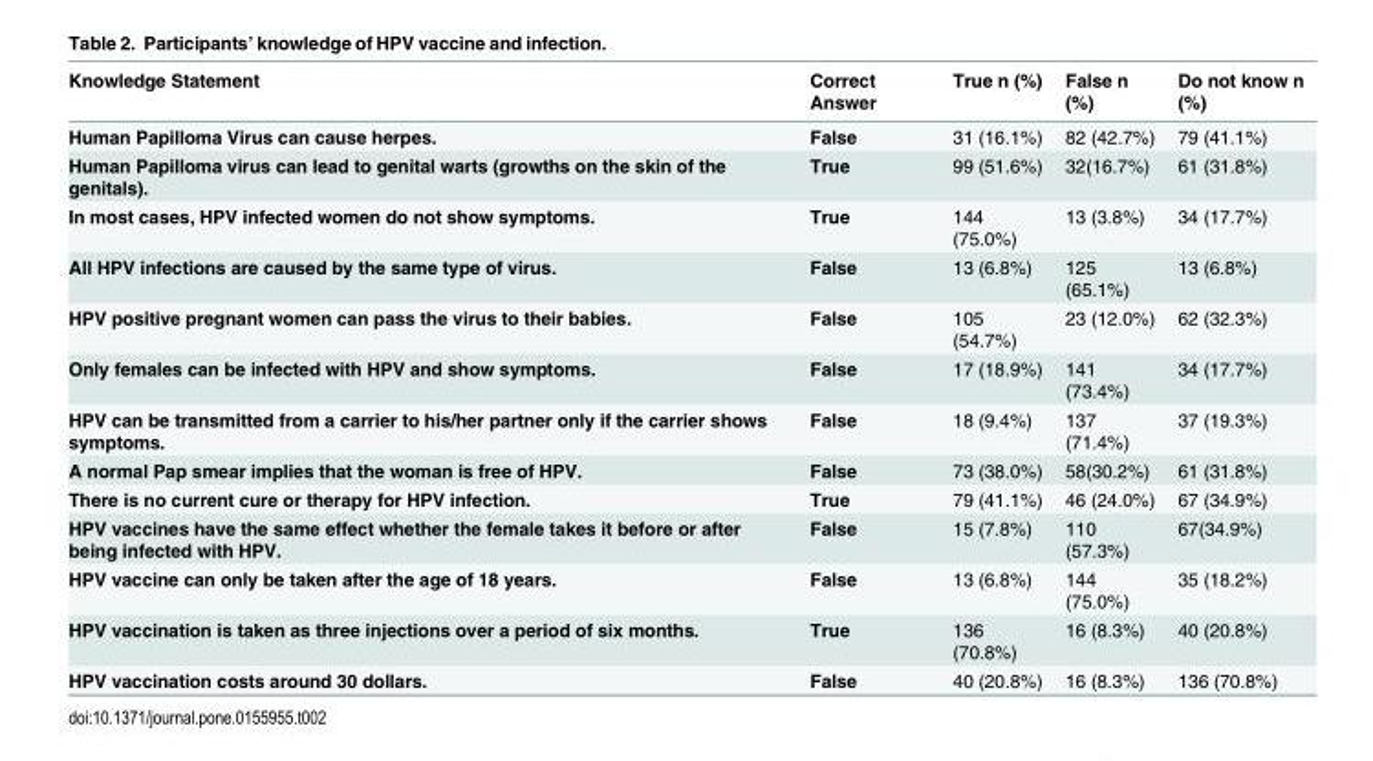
<table><thead><tr><td>Knowledge Statement</td><td>Correct Answer</td><td>True n (%)</td><td>False n (%)</td><td>Do not know n (%)</td></tr></thead><tbody><tr><td>Human Papilloma Virus can cause herpes.</td><td>False</td><td>31 (16.1%)</td><td>82 (42.7%)</td><td>79 (41.1%)</td></tr><tr><td>Human Papilloma virus can lead to genital warts (growths on the skin of the genitals).</td><td>True</td><td>99 (51.6%)</td><td>32(16.7%)</td><td>61 (31.8%)</td></tr><tr><td>In most cases, HPV infected women do not show symptoms.</td><td>True</td><td>144 (75.0%)</td><td>13 (3.8%)</td><td>34 (17.7%)</td></tr><tr><td>All HPV infections are caused by the same type of virus.</td><td>False</td><td>13 (6.8%)</td><td>125 (65.1%)</td><td>13 (6.8%)</td></tr><tr><td>HPV positive pregnant women can pass the virus to their babies.</td><td>False</td><td>105 (54.7%)</td><td>23 (12.0%)</td><td>62 (32.3%)</td></tr><tr><td>Only females can be infected with HPV and show symptoms.</td><td>False</td><td>17 (18.9%)</td><td>141 (73.4%)</td><td>34 (17.7%)</td></tr><tr><td>HPV can be transmitted from a carrier to his/her partner only if the carrier shows symptoms.</td><td>False</td><td>18 (9.4%)</td><td>137 (71.4%)</td><td>37 (19.3%)</td></tr><tr><td>A normal Pap smear implies that the woman is free of HPV.</td><td>False</td><td>73 (38.0%)</td><td>58(30.2%)</td><td>61 (31.8%)</td></tr><tr><td>There is no current cure or therapy for HPV infection.</td><td>True</td><td>79 (41.1%)</td><td>46 (24.0%)</td><td>67 (34.9%)</td></tr><tr><td>HPV vaccines have the same effect whether the female takes it before or after being infected with HPV.</td><td>False</td><td>15 (7.8%)</td><td>110 (57.3%)</td><td>67(34.9%)</td></tr><tr><td>HPV vaccine can only be taken after the age of 18 years.</td><td>False</td><td>13 (6.8%)</td><td>144 (75.0%)</td><td>35 (18.2%)</td></tr><tr><td>HPV vaccination is taken as three injections over a period of six months.</td><td>True</td><td>136 (70.8%)</td><td>16 (8.3%)</td><td>40 (20.8%)</td></tr><tr><td>HPV vaccination costs around 30 dollars.</td><td>False</td><td>40 (20.8%)</td><td>16 (8.3%)</td><td>136 (70.8%)</td></tr></tbody></table>